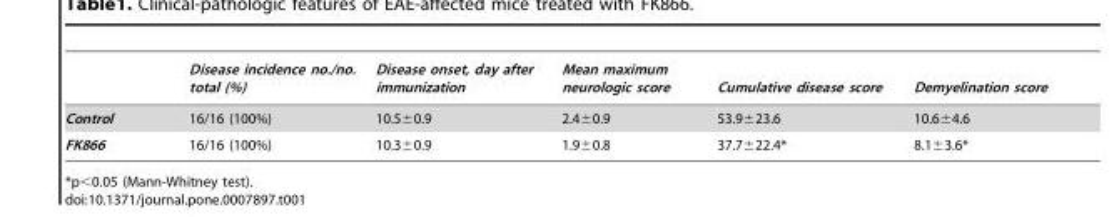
<table><thead><tr><td></td><td>Disease incidence no./no. total (%)</td><td>Disease onset, day after immunization</td><td>Mean maximum neurologic score</td><td>Cumulative disease score</td><td>Demyelination score</td></tr></thead><tbody><tr><td>Control</td><td>16/16 (100%)</td><td>10.5±0.9</td><td>2.4±0.9</td><td>53.9±23.6</td><td>10.6±4.6</td></tr><tr><td>FK866</td><td>16/16 (100%)</td><td>10.3±0.9</td><td>1.9±0.8</td><td>37.7±22.4*</td><td>8.1±3.6*</td></tr></tbody></table>